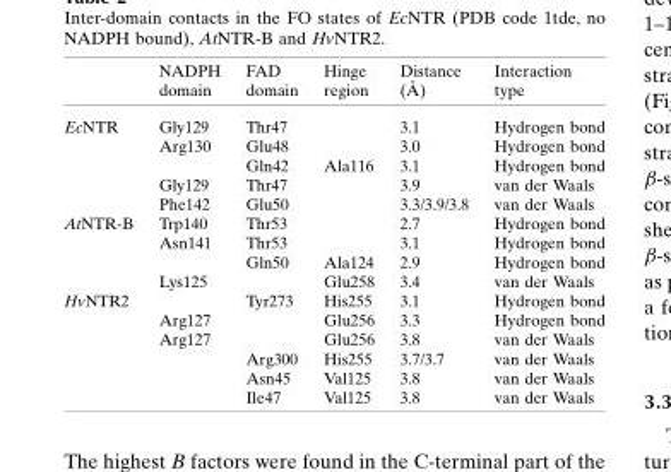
<table><thead><tr><td></td><td>NADPH domain</td><td>FAD domain</td><td>Hinge region</td><td>Distance (A˚ )</td><td>Interaction type</td></tr></thead><tbody><tr><td rowspan="5">EcNTR</td><td>Gly129</td><td>Thr47</td><td></td><td>3.1</td><td>Hydrogen bond</td></tr><tr><td>Arg130</td><td>Glu48</td><td></td><td>3.0</td><td>Hydrogen bond</td></tr><tr><td></td><td>Gln42</td><td>Ala116</td><td>3.1</td><td>Hydrogen bond</td></tr><tr><td>Gly129</td><td>Thr47</td><td></td><td>3.9</td><td>van der Waals</td></tr><tr><td>Phe142</td><td>Glu50</td><td></td><td>3.3/3.9/3.8</td><td>van der Waals</td></tr><tr><td rowspan="4">AtNTR-B</td><td>Trp140</td><td>Thr53</td><td></td><td>2.7</td><td>Hydrogen bond</td></tr><tr><td>Asn141</td><td>Thr53</td><td></td><td>3.1</td><td>Hydrogen bond</td></tr><tr><td></td><td>Gln50</td><td>Ala124</td><td>2.9</td><td>Hydrogen bond</td></tr><tr><td>Lys125</td><td></td><td>Glu258</td><td>3.4</td><td>van der Waals</td></tr><tr><td rowspan="6">HvNTR2</td><td></td><td>Tyr273</td><td>His255</td><td>3.1</td><td>Hydrogen bond</td></tr><tr><td>Arg127</td><td></td><td>Glu256</td><td>3.3</td><td>Hydrogen bond</td></tr><tr><td>Arg127</td><td></td><td>Glu256</td><td>3.8</td><td>van der Waals</td></tr><tr><td></td><td>Arg300</td><td>His255</td><td>3.7/3.7</td><td>van der Waals</td></tr><tr><td></td><td>Asn45</td><td>Val125</td><td>3.8</td><td>van der Waals</td></tr><tr><td></td><td>Ile47</td><td>Val125</td><td>3.8</td><td>van der Waals</td></tr></tbody></table>